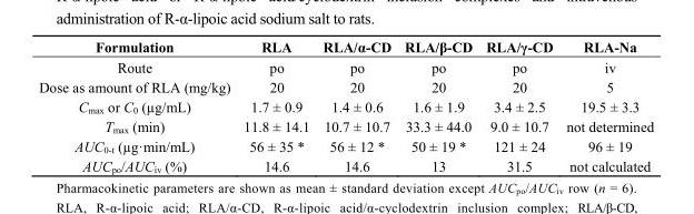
<table><thead><tr><td>Formulation</td><td>RLA</td><td>RLA/α-CD</td><td>RLA/β-CD</td><td>RLA/γ-CD</td><td>RLA-Na</td></tr></thead><tbody><tr><td>Route</td><td>po</td><td>po</td><td>po</td><td>po</td><td>iv</td></tr><tr><td>Dose as amount of RLA (mg/kg)</td><td>20</td><td>20</td><td>20</td><td>20</td><td>5</td></tr><tr><td>C<sub>max</sub> or C<sub>0</sub> (µg/mL)</td><td>1.7 ± 0.9</td><td>1.4 ± 0.6</td><td>1.6 ± 1.9</td><td>3.4 ± 2.5</td><td>19.5 ± 3.3</td></tr><tr><td>T<sub>max</sub> (min)</td><td>11.8 ± 14.1</td><td>10.7 ± 10.7</td><td>33.3 ± 44.0</td><td>9.0 ± 10.7</td><td>not determined</td></tr><tr><td>AUC<sub>0-t</sub> (µg·min/mL)</td><td>56 ± 35 *</td><td>56 ± 12 *</td><td>50 ± 19 *</td><td>121 ± 24</td><td>96 ± 19</td></tr><tr><td>AUC<sub>po</sub>/AUC<sub>iv</sub> (%)</td><td>14.6</td><td>14.6</td><td>13</td><td>31.5</td><td>not calculated</td></tr></tbody></table>